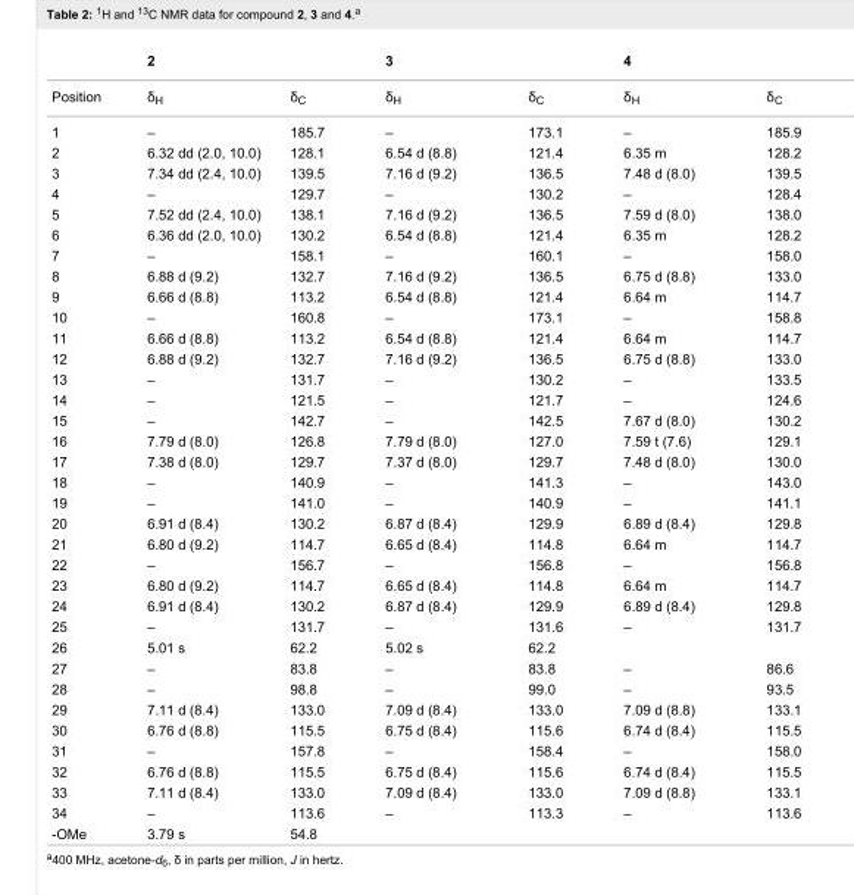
<table><thead><tr><td rowspan="2">Position</td><td colspan="2">2</td><td colspan="2">3</td><td colspan="2">4</td></tr><tr><td>δ<sub>H</sub></td><td>δ<sub>C</sub></td><td>δ<sub>H</sub></td><td>δ<sub>C</sub></td><td>δ<sub>H</sub></td><td>δ<sub>C</sub></td></tr></thead><tbody><tr><td>1</td><td>–</td><td>185.7</td><td>–</td><td>173.1</td><td>–</td><td>185.9</td></tr><tr><td>2</td><td>6.32 dd (2.0, 10.0)</td><td>128.1</td><td>6.54 d (8.8)</td><td>121.4</td><td>6.35 m</td><td>128.2</td></tr><tr><td>3</td><td>7.34 dd (2.4, 10.0)</td><td>139.5</td><td>7.16 d (9.2)</td><td>136.5</td><td>7.48 d (8.0)</td><td>139.5</td></tr><tr><td>4</td><td>–</td><td>129.7</td><td>–</td><td>130.2</td><td>–</td><td>128.4</td></tr><tr><td>5</td><td>7.52 dd (2.4, 10.0)</td><td>138.1</td><td>7.16 d (9.2)</td><td>136.5</td><td>7.59 d (8.0)</td><td>138.0</td></tr><tr><td>6</td><td>6.36 dd (2.0, 10.0)</td><td>130.2</td><td>6.54 d (8.8)</td><td>121.4</td><td>6.35 m</td><td>128.2</td></tr><tr><td>7</td><td>–</td><td>158.1</td><td>–</td><td>160.1</td><td>–</td><td>158.0</td></tr><tr><td>8</td><td>6.88 d (9.2)</td><td>132.7</td><td>7.16 d (9.2)</td><td>136.5</td><td>6.75 d (8.8)</td><td>133.0</td></tr><tr><td>9</td><td>6.66 d (8.8)</td><td>113.2</td><td>6.54 d (8.8)</td><td>121.4</td><td>6.64 m</td><td>114.7</td></tr><tr><td>10</td><td>–</td><td>160.8</td><td>–</td><td>173.1</td><td>–</td><td>158.8</td></tr><tr><td>11</td><td>6.66 d (8.8)</td><td>113.2</td><td>6.54 d (8.8)</td><td>121.4</td><td>6.64 m</td><td>114.7</td></tr><tr><td>12</td><td>6.88 d (9.2)</td><td>132.7</td><td>7.16 d (9.2)</td><td>136.5</td><td>6.75 d (8.8)</td><td>133.0</td></tr><tr><td>13</td><td>–</td><td>131.7</td><td>–</td><td>130.2</td><td>–</td><td>133.5</td></tr><tr><td>14</td><td>–</td><td>121.5</td><td>–</td><td>121.7</td><td>–</td><td>124.6</td></tr><tr><td>15</td><td>–</td><td>142.7</td><td>–</td><td>142.5</td><td>7.67 d (8.0)</td><td>130.2</td></tr><tr><td>16</td><td>7.79 d (8.0)</td><td>126.8</td><td>7.79 d (8.0)</td><td>127.0</td><td>7.59 t (7.6)</td><td>129.1</td></tr><tr><td>17</td><td>7.38 d (8.0)</td><td>129.7</td><td>7.37 d (8.0)</td><td>129.7</td><td>7.48 d (8.0)</td><td>130.0</td></tr><tr><td>18</td><td>–</td><td>140.9</td><td>–</td><td>141.3</td><td>–</td><td>143.0</td></tr><tr><td>19</td><td>–</td><td>141.0</td><td>–</td><td>140.9</td><td>–</td><td>141.1</td></tr><tr><td>20</td><td>6.91 d (8.4)</td><td>130.2</td><td>6.87 d (8.4)</td><td>129.9</td><td>6.89 d (8.4)</td><td>129.8</td></tr><tr><td>21</td><td>6.80 d (9.2)</td><td>114.7</td><td>6.65 d (8.4)</td><td>114.8</td><td>6.64 m</td><td>114.7</td></tr><tr><td>22</td><td>–</td><td>156.7</td><td>–</td><td>156.8</td><td>–</td><td>156.8</td></tr><tr><td>23</td><td>6.80 d (9.2)</td><td>114.7</td><td>6.65 d (8.4)</td><td>114.8</td><td>6.64 m</td><td>114.7</td></tr><tr><td>24</td><td>6.91 d (8.4)</td><td>130.2</td><td>6.87 d (8.4)</td><td>129.9</td><td>6.89 d (8.4)</td><td>129.8</td></tr><tr><td>25</td><td>–</td><td>131.7</td><td>–</td><td>131.6</td><td>–</td><td>131.7</td></tr><tr><td>26</td><td>5.01 s</td><td>62.2</td><td>5.02 s</td><td>62.2</td><td></td><td></td></tr><tr><td>27</td><td>–</td><td>83.8</td><td>–</td><td>83.8</td><td>–</td><td>86.6</td></tr><tr><td>28</td><td>–</td><td>98.8</td><td>–</td><td>99.0</td><td>–</td><td>93.5</td></tr><tr><td>29</td><td>7.11 d (8.4)</td><td>133.0</td><td>7.09 d (8.4)</td><td>133.0</td><td>7.09 d (8.8)</td><td>133.1</td></tr><tr><td>30</td><td>6.76 d (8.8)</td><td>115.5</td><td>6.75 d (8.4)</td><td>115.6</td><td>6.74 d (8.4)</td><td>115.5</td></tr><tr><td>31</td><td>–</td><td>157.8</td><td>–</td><td>158.4</td><td>–</td><td>158.0</td></tr><tr><td>32</td><td>6.76 d (8.8)</td><td>115.5</td><td>6.75 d (8.4)</td><td>115.6</td><td>6.74 d (8.4)</td><td>115.5</td></tr><tr><td>33</td><td>7.11 d (8.4)</td><td>133.0</td><td>7.09 d (8.4)</td><td>133.0</td><td>7.09 d (8.8)</td><td>133.1</td></tr><tr><td>34</td><td>–</td><td>113.6</td><td>–</td><td>113.3</td><td>–</td><td>113.6</td></tr><tr><td>-OMe</td><td>3.79 s</td><td>54.8</td><td></td><td></td><td></td><td></td></tr></tbody></table>